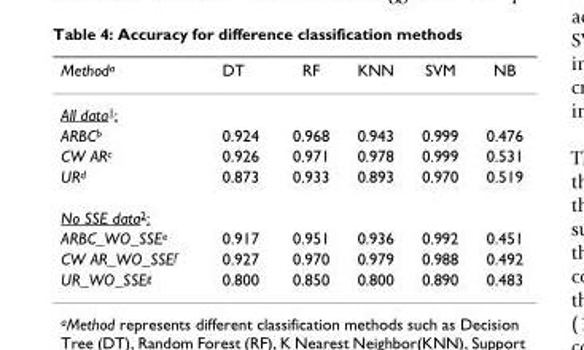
<table><thead><tr><td>Method<sup>a</sup></td><td>DT</td><td>RF</td><td>KNN</td><td>SVM</td><td>NB</td></tr></thead><tbody><tr><td colspan="6">All data<sup>1</sup>:</td></tr><tr><td>ARBC<sup>b</sup></td><td>0.924</td><td>0.968</td><td>0.943</td><td>0.999</td><td>0.476</td></tr><tr><td>CW AR<sup>c</sup></td><td>0.926</td><td>0.971</td><td>0.978</td><td>0.999</td><td>0.531</td></tr><tr><td>UR<sup>d</sup></td><td>0.873</td><td>0.933</td><td>0.893</td><td>0.970</td><td>0.519</td></tr><tr><td colspan="6">No SSE data<sup>2</sup>:</td></tr><tr><td>ARBC_WO_SSE<sup>e</sup></td><td>0.917</td><td>0.951</td><td>0.936</td><td>0.992</td><td>0.451</td></tr><tr><td>CW AR_WO_SSE<sup>f</sup></td><td>0.927</td><td>0.970</td><td>0.979</td><td>0.988</td><td>0.492</td></tr><tr><td>UR_WO_SSE<sup>g</sup></td><td>0.800</td><td>0.850</td><td>0.800</td><td>0.890</td><td>0.483</td></tr></tbody></table>